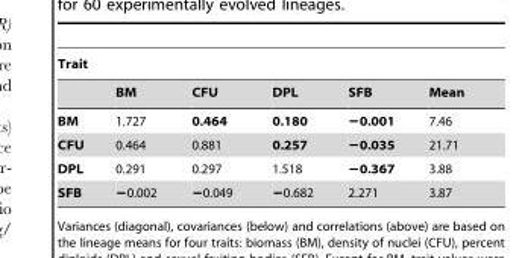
<table><thead><tr><td colspan="6">Trait</td></tr><tr><td></td><td>BM</td><td>CFU</td><td>DPL</td><td>SFB</td><td>Mean</td></tr></thead><tbody><tr><td>BM</td><td>1.727</td><td>0.464</td><td>0.180</td><td>−0.001</td><td>7.46</td></tr><tr><td>CFU</td><td>0.464</td><td>0.881</td><td>0.257</td><td>−0.035</td><td>21.71</td></tr><tr><td>DPL</td><td>0.291</td><td>0.297</td><td>1.518</td><td>−0.367</td><td>3.88</td></tr><tr><td>SFB</td><td>−0.002</td><td>−0.049</td><td>−0.682</td><td>2.271</td><td>3.87</td></tr></tbody></table>